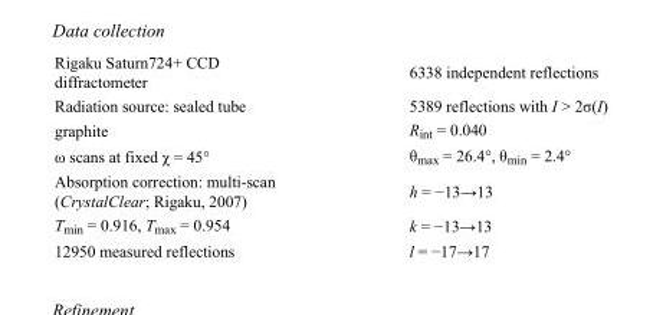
<table><tbody><tr><td>Rigaku Saturn724+ CCD diffractometer</td><td>6338 independent reflections</td></tr><tr><td>Radiation source: sealed tube</td><td>5389 reflections with I &gt; 2σ(I)</td></tr><tr><td>graphite</td><td>R<sub>int</sub> = 0.040</td></tr><tr><td>ω scans at fixed χ = 45°</td><td>θ<sub>max</sub> = 26.4°, θ<sub>min</sub> = 2.4°</td></tr><tr><td>Absorption correction: multi-scan (CrystalClear; Rigaku, 2007)</td><td>h = −13→13</td></tr><tr><td>T<sub>min</sub> = 0.916, T<sub>max</sub> = 0.954</td><td>k = −13→13</td></tr><tr><td>12950 measured reflections</td><td>l = −17→17</td></tr></tbody></table>